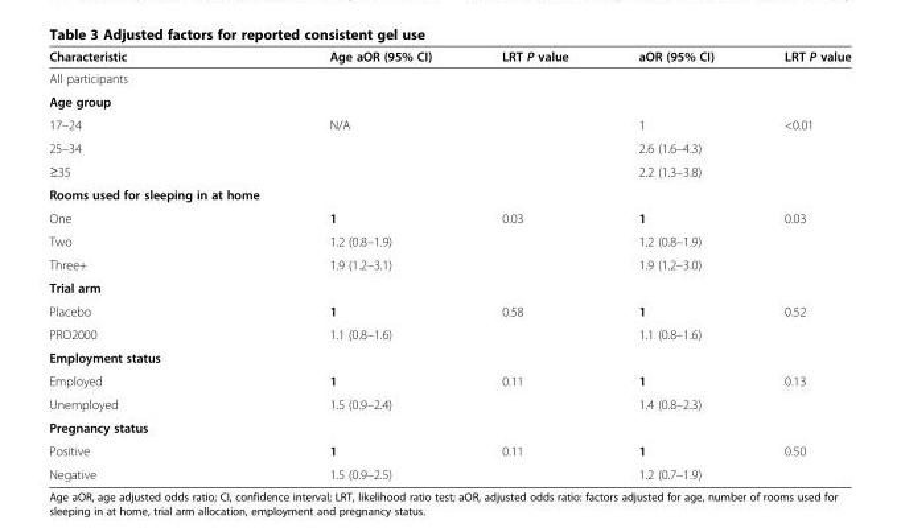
<table><thead><tr><td>Characteristic</td><td>Age aOR (95% CI)</td><td>LRT P value</td><td>aOR (95% CI)</td><td>LRT P value</td></tr></thead><tbody><tr><td colspan="5">All participants</td></tr><tr><td colspan="5">Age group</td></tr><tr><td>17–24</td><td>N/A</td><td></td><td>1</td><td>&lt;0.01</td></tr><tr><td>25–34</td><td></td><td></td><td>2.6 (1.6–4.3)</td><td></td></tr><tr><td>≥35</td><td></td><td></td><td>2.2 (1.3–3.8)</td><td></td></tr><tr><td colspan="5">Rooms used for sleeping in at home</td></tr><tr><td>One</td><td>1</td><td>0.03</td><td>1</td><td>0.03</td></tr><tr><td>Two</td><td>1.2 (0.8–1.9)</td><td></td><td>1.2 (0.8–1.9)</td><td></td></tr><tr><td>Three+</td><td>1.9 (1.2–3.1)</td><td></td><td>1.9 (1.2–3.0)</td><td></td></tr><tr><td colspan="5">Trial arm</td></tr><tr><td>Placebo</td><td>1</td><td>0.58</td><td>1</td><td>0.52</td></tr><tr><td>PRO2000</td><td>1.1 (0.8–1.6)</td><td></td><td>1.1 (0.8–1.6)</td><td></td></tr><tr><td colspan="5">Employment status</td></tr><tr><td>Employed</td><td>1</td><td>0.11</td><td>1</td><td>0.13</td></tr><tr><td>Unemployed</td><td>1.5 (0.9–2.4)</td><td></td><td>1.4 (0.8–2.3)</td><td></td></tr><tr><td colspan="5">Pregnancy status</td></tr><tr><td>Positive</td><td>1</td><td>0.11</td><td>1</td><td>0.50</td></tr><tr><td>Negative</td><td>1.5 (0.9–2.5)</td><td></td><td>1.2 (0.7–1.9)</td><td></td></tr></tbody></table>